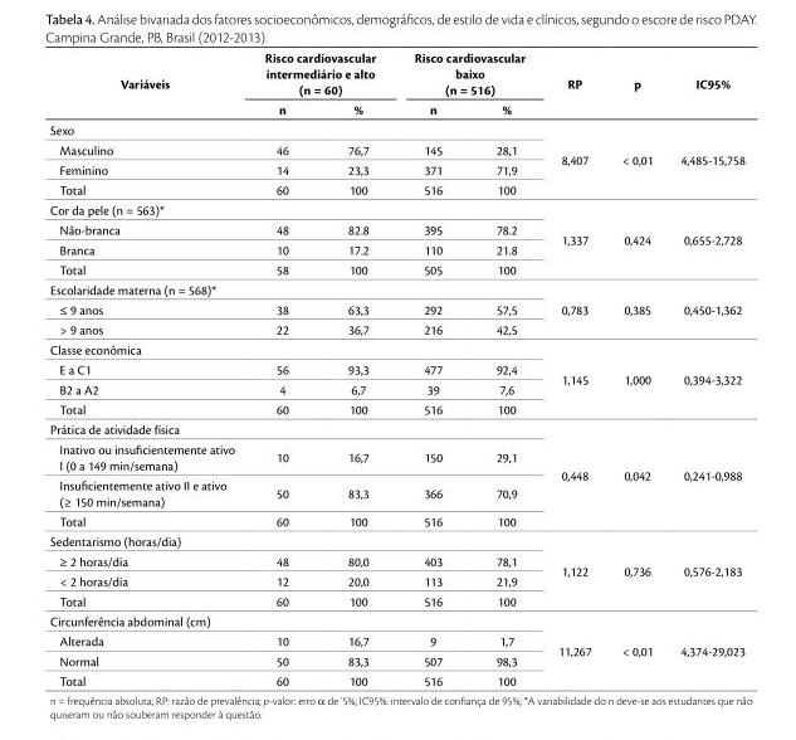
<table><thead><tr><td rowspan="2">Variáveis</td><td colspan="2">Risco cardiovascular intermediário e alto (n = 60)</td><td colspan="2">Risco cardiovascular baixo (n = 516)</td><td rowspan="2">RP</td><td rowspan="2">p</td><td rowspan="2">IC95%</td></tr><tr><td>n</td><td>%</td><td>n</td><td>%</td></tr></thead><tbody><tr><td colspan="5">Sexo</td><td rowspan="4">8,407</td><td rowspan="4">&lt; 0,01</td><td rowspan="4">4,485-15,758</td></tr><tr><td>Masculino</td><td>46</td><td>76,7</td><td>145</td><td>28,1</td></tr><tr><td>Feminino</td><td>14</td><td>23,3</td><td>371</td><td>71,9</td></tr><tr><td>Total</td><td>60</td><td>100</td><td>516</td><td>100</td></tr><tr><td colspan="5">Cor da pele (n = 563)*</td><td rowspan="4">1,337</td><td rowspan="4">0,424</td><td rowspan="4">0,655-2,728</td></tr><tr><td>Não-branca</td><td>48</td><td>82.8</td><td>395</td><td>78.2</td></tr><tr><td>Branca</td><td>10</td><td>17.2</td><td>110</td><td>21.8</td></tr><tr><td>Total</td><td>58</td><td>100</td><td>505</td><td>100</td></tr><tr><td colspan="5">Escolaridade materna (n = 568)*</td><td rowspan="3">0,783</td><td rowspan="3">0,385</td><td rowspan="3">0,450-1,362</td></tr><tr><td>≤ 9 anos</td><td>38</td><td>63,3</td><td>292</td><td>57,5</td></tr><tr><td>&gt; 9 anos</td><td>22</td><td>36,7</td><td>216</td><td>42,5</td></tr><tr><td colspan="5">Classe econômica</td><td rowspan="4">1,145</td><td rowspan="4">1,000</td><td rowspan="4">0,394-3,322</td></tr><tr><td>E a C1</td><td>56</td><td>93,3</td><td>477</td><td>92,4</td></tr><tr><td>B2 a A2</td><td>4</td><td>6,7</td><td>39</td><td>7,6</td></tr><tr><td>Total</td><td>60</td><td>100</td><td>516</td><td>100</td></tr><tr><td colspan="5">Prática de atividade física</td><td rowspan="4">0,448</td><td rowspan="4">0,042</td><td rowspan="4">0,241-0,988</td></tr><tr><td>Inativo ou insuficientemente ativo I (0 a 149 min/semana)</td><td>10</td><td>16,7</td><td>150</td><td>29,1</td></tr><tr><td>Insuficientemente ativo II e ativo (≥ 150 min/semana)</td><td>50</td><td>83,3</td><td>366</td><td>70,9</td></tr><tr><td>Total</td><td>60</td><td>100</td><td>516</td><td>100</td></tr><tr><td colspan="5">Sedentarismo (horas/dia)</td><td rowspan="4">1,122</td><td rowspan="4">0,736</td><td rowspan="4">0,576-2,183</td></tr><tr><td>≥ 2 horas/dia</td><td>48</td><td>80,0</td><td>403</td><td>78,1</td></tr><tr><td>&lt; 2 horas/dia</td><td>12</td><td>20,0</td><td>113</td><td>21,9</td></tr><tr><td>Total</td><td>60</td><td>100</td><td>516</td><td>100</td></tr><tr><td colspan="5">Circunferência abdominal (cm)</td><td rowspan="4">11,267</td><td rowspan="4">&lt; 0,01</td><td rowspan="4">4,374-29,023</td></tr><tr><td>Alterada</td><td>10</td><td>16,7</td><td>9</td><td>1,7</td></tr><tr><td>Normal</td><td>50</td><td>83,3</td><td>507</td><td>98,3</td></tr><tr><td>Total</td><td>60</td><td>100</td><td>516</td><td>100</td></tr></tbody></table>